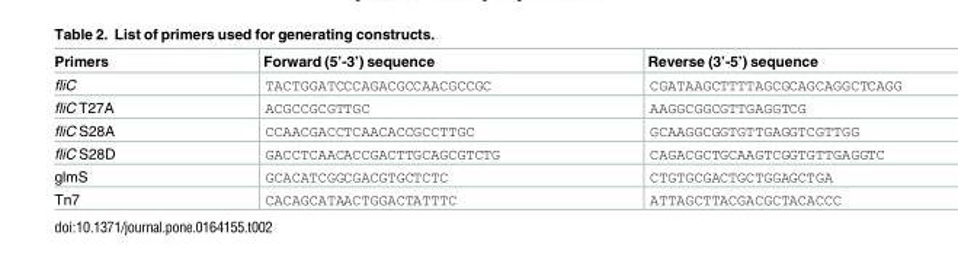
<table><thead><tr><td>Primers</td><td>Forward (5’-3’) sequence</td><td>Reverse (3’-5’) sequence</td></tr></thead><tbody><tr><td>fliC</td><td>TACTGGATCCCAGACGCCAACGCCGC</td><td>CGATAAGCTTTTAGCGCAGCAGGCTCAGG</td></tr><tr><td>fliC T27A</td><td>ACGCCGCGTTGC</td><td>AAGGCGGCGTTGAGGTCG</td></tr><tr><td>fliC S28A</td><td>CCAACGACCTCAACACCGCCTTGC</td><td>GCAAGGCGGTGTTGAGGTCGTTGG</td></tr><tr><td>fliC S28D</td><td>GACCTCAACACCGACTTGCAGCGTCTG</td><td>CAGACGCTGCAAGTCGGTGTTGAGGTC</td></tr><tr><td>glmS</td><td>GCACATCGGCGACGTGCTCTC</td><td>CTGTGCGACTGCTGGAGCTGA</td></tr><tr><td>Tn7</td><td>CACAGCATAACTGGACTATTTC</td><td>ATTAGCTTACGACGCTACACCC</td></tr></tbody></table>